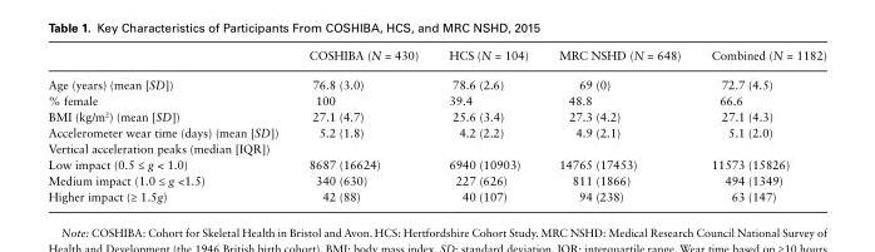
<table><thead><tr><td></td><td>COSHIBA (N = 430)</td><td>HCS (N = 104)</td><td>MRC NSHD (N = 648)</td><td>Combined (N = 1182)</td></tr></thead><tbody><tr><td>Age (years) (mean [SD])</td><td>76.8 (3.0)</td><td>78.6 (2.6)</td><td>69 (0)</td><td>72.7 (4.5)</td></tr><tr><td>% female</td><td>100</td><td>39.4</td><td>48.8</td><td>66.6</td></tr><tr><td>BMI (kg/m<sup>2</sup>) (mean [SD])</td><td>27.1 (4.7)</td><td>25.6 (3.4)</td><td>27.3 (4.2)</td><td>27.1 (4.3)</td></tr><tr><td>Accelerometer wear time (days) (mean [SD])</td><td>5.2 (1.8)</td><td>4.2 (2.2)</td><td>4.9 (2.1)</td><td>5.1 (2.0)</td></tr><tr><td colspan="5">Vertical acceleration peaks (median [IQR])</td></tr><tr><td>Low impact (0.5 ≤ g &lt; 1.0)</td><td>8687 (16624)</td><td>6940 (10903)</td><td>14765 (17453)</td><td>11573 (15826)</td></tr><tr><td>Medium impact (1.0 ≤ g &lt;1.5)</td><td>340 (630)</td><td>227 (626)</td><td>811 (1866)</td><td>494 (1349)</td></tr><tr><td>Higher impact (≥ 1.5g)</td><td>42 (88)</td><td>40 (107)</td><td>94 (238)</td><td>63 (147)</td></tr></tbody></table>